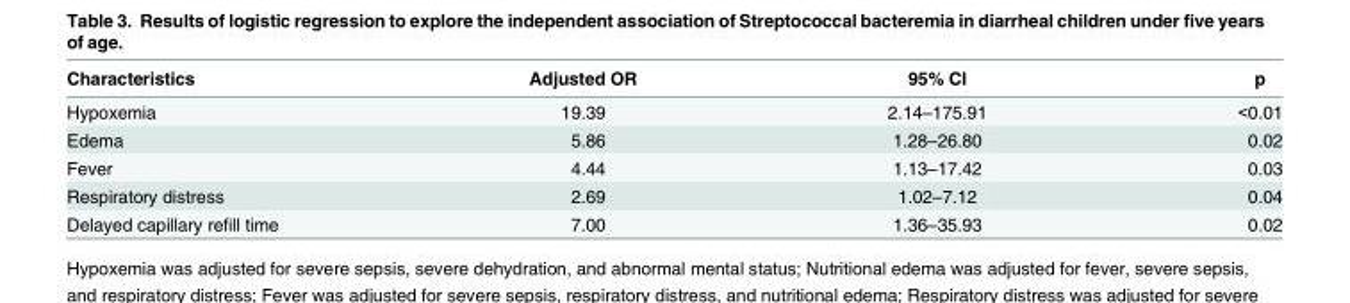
<table><thead><tr><td>Characteristics</td><td>Adjusted OR</td><td>95% CI</td><td>p</td></tr></thead><tbody><tr><td>Hypoxemia</td><td>19.39</td><td>2.14–175.91</td><td>&lt;0.01</td></tr><tr><td>Edema</td><td>5.86</td><td>1.28–26.80</td><td>0.02</td></tr><tr><td>Fever</td><td>4.44</td><td>1.13–17.42</td><td>0.03</td></tr><tr><td>Respiratory distress</td><td>2.69</td><td>1.02–7.12</td><td>0.04</td></tr><tr><td>Delayed capillary refill time</td><td>7.00</td><td>1.36–35.93</td><td>0.02</td></tr></tbody></table>